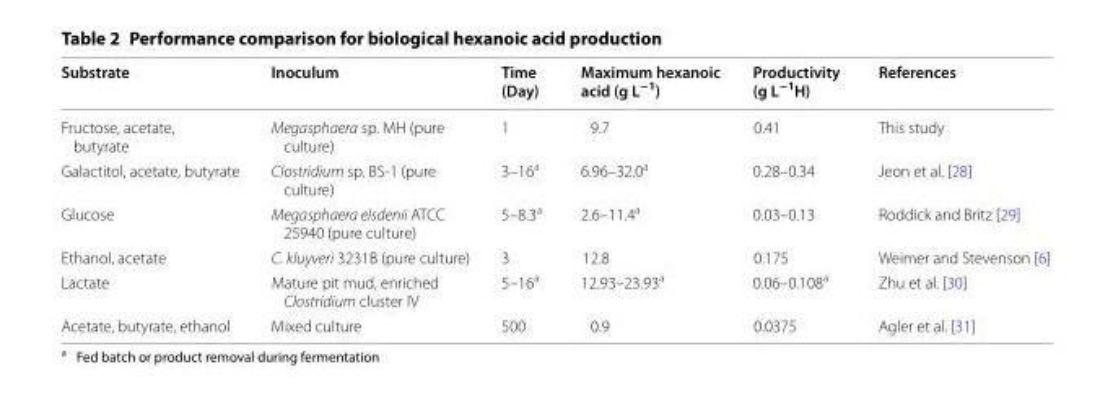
<table><thead><tr><td>Substrate</td><td>Inoculum</td><td>Time (Day)</td><td>Maximum hexanoic acid (g L<sup>−1</sup>)</td><td>Productivity (g L<sup>−1</sup>H)</td><td>References</td></tr></thead><tbody><tr><td>Fructose, acetate, butyrate</td><td>Megasphaera sp. MH (pure culture)</td><td>1</td><td>9.7</td><td>0.41</td><td>This study</td></tr><tr><td>Galactitol, acetate, butyrate</td><td>Clostridium sp. BS‑1 (pure culture)</td><td>3–16<sup>a</sup></td><td>6.96–32.0<sup>a</sup></td><td>0.28–0.34</td><td>Jeon et al. [28]</td></tr><tr><td>Glucose</td><td>Megasphaera elsdenii ATCC 25940 (pure culture)</td><td>5–8.3<sup>a</sup></td><td>2.6–11.4<sup>a</sup></td><td>0.03–0.13</td><td>Roddick and Britz [29]</td></tr><tr><td>Ethanol, acetate</td><td>C. kluyveri 3231B (pure culture)</td><td>3</td><td>12.8</td><td>0.175</td><td>Weimer and Stevenson [6]</td></tr><tr><td>Lactate</td><td>Mature pit mud, enriched Clostridium cluster IV</td><td>5–16<sup>a</sup></td><td>12.93–23.93<sup>a</sup></td><td>0.06–0.108<sup>a</sup></td><td>Zhu et al. [30]</td></tr><tr><td>Acetate, butyrate, ethanol</td><td>Mixed culture</td><td>500</td><td>0.9</td><td>0.0375</td><td>Agler et al. [31]</td></tr></tbody></table>